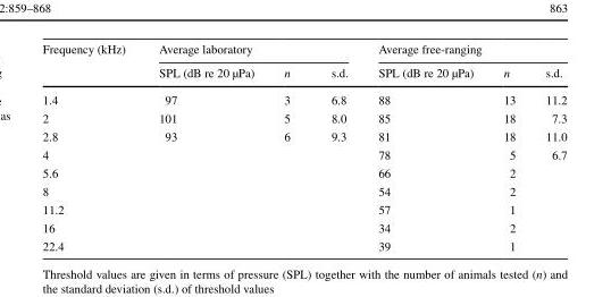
<table><thead><tr><td rowspan="2">Frequency (kHz)</td><td colspan="3">Average laboratory</td><td colspan="3">Average free-ranging</td></tr><tr><td>SPL (dB re 20 µPa)</td><td>n</td><td>s.d.</td><td>SPL (dB re 20 µPa)</td><td>n</td><td>s.d.</td></tr></thead><tbody><tr><td>1.4</td><td>97</td><td>3</td><td>6.8</td><td>88</td><td>13</td><td>11.2</td></tr><tr><td>2</td><td>101</td><td>5</td><td>8.0</td><td>85</td><td>18</td><td>7.3</td></tr><tr><td>2.8</td><td>93</td><td>6</td><td>9.3</td><td>81</td><td>18</td><td>11.0</td></tr><tr><td>4</td><td></td><td></td><td></td><td>78</td><td>5</td><td>6.7</td></tr><tr><td>5.6</td><td></td><td></td><td></td><td>66</td><td>2</td><td></td></tr><tr><td>8</td><td></td><td></td><td></td><td>54</td><td>2</td><td></td></tr><tr><td>11.2</td><td></td><td></td><td></td><td>57</td><td>1</td><td></td></tr><tr><td>16</td><td></td><td></td><td></td><td>34</td><td>2</td><td></td></tr><tr><td>22.4</td><td></td><td></td><td></td><td>39</td><td>1</td><td></td></tr></tbody></table>